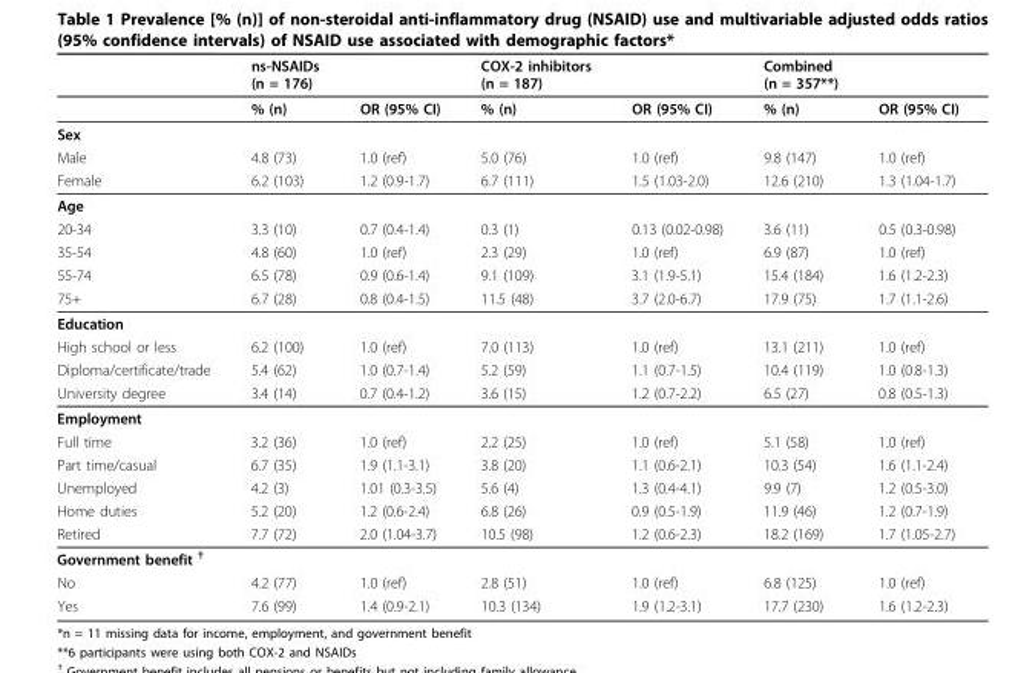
<table><thead><tr><td></td><td>ns-NSAIDs (n = 176)</td><td></td><td>COX-2 inhibitors (n = 187)</td><td></td><td>Combined (n = 357**)</td><td></td></tr></thead><tbody><tr><td></td><td>% (n)</td><td>OR (95% CI)</td><td>% (n)</td><td>OR (95% CI)</td><td>% (n)</td><td>OR (95% CI)</td></tr><tr><td colspan="7">Sex</td></tr><tr><td>Male</td><td>4.8 (73)</td><td>1.0 (ref)</td><td>5.0 (76)</td><td>1.0 (ref)</td><td>9.8 (147)</td><td>1.0 (ref)</td></tr><tr><td>Female</td><td>6.2 (103)</td><td>1.2 (0.9-1.7)</td><td>6.7 (111)</td><td>1.5 (1.03-2.0)</td><td>12.6 (210)</td><td>1.3 (1.04-1.7)</td></tr><tr><td colspan="7">Age</td></tr><tr><td>20-34</td><td>3.3 (10)</td><td>0.7 (0.4-1.4)</td><td>0.3 (1)</td><td>0.13 (0.02-0.98)</td><td>3.6 (11)</td><td>0.5 (0.3-0.98)</td></tr><tr><td>35-54</td><td>4.8 (60)</td><td>1.0 (ref)</td><td>2.3 (29)</td><td>1.0 (ref)</td><td>6.9 (87)</td><td>1.0 (ref)</td></tr><tr><td>55-74</td><td>6.5 (78)</td><td>0.9 (0.6-1.4)</td><td>9.1 (109)</td><td>3.1 (1.9-5.1)</td><td>15.4 (184)</td><td>1.6 (1.2-2.3)</td></tr><tr><td>75+</td><td>6.7 (28)</td><td>0.8 (0.4-1.5)</td><td>11.5 (48)</td><td>3.7 (2.0-6.7)</td><td>17.9 (75)</td><td>1.7 (1.1-2.6)</td></tr><tr><td colspan="7">Education</td></tr><tr><td>High school or less</td><td>6.2 (100)</td><td>1.0 (ref)</td><td>7.0 (113)</td><td>1.0 (ref)</td><td>13.1 (211)</td><td>1.0 (ref)</td></tr><tr><td>Diploma/certificate/trade</td><td>5.4 (62)</td><td>1.0 (0.7-1.4)</td><td>5.2 (59)</td><td>1.1 (0.7-1.5)</td><td>10.4 (119)</td><td>1.0 (0.8-1.3)</td></tr><tr><td>University degree</td><td>3.4 (14)</td><td>0.7 (0.4-1.2)</td><td>3.6 (15)</td><td>1.2 (0.7-2.2)</td><td>6.5 (27)</td><td>0.8 (0.5-1.3)</td></tr><tr><td colspan="7">Employment</td></tr><tr><td>Full time</td><td>3.2 (36)</td><td>1.0 (ref)</td><td>2.2 (25)</td><td>1.0 (ref)</td><td>5.1 (58)</td><td>1.0 (ref)</td></tr><tr><td>Part time/casual</td><td>6.7 (35)</td><td>1.9 (1.1-3.1)</td><td>3.8 (20)</td><td>1.1 (0.6-2.1)</td><td>10.3 (54)</td><td>1.6 (1.1-2.4)</td></tr><tr><td>Unemployed</td><td>4.2 (3)</td><td>1.01 (0.3-3.5)</td><td>5.6 (4)</td><td>1.3 (0.4-4.1)</td><td>9.9 (7)</td><td>1.2 (0.5-3.0)</td></tr><tr><td>Home duties</td><td>5.2 (20)</td><td>1.2 (0.6-2.4)</td><td>6.8 (26)</td><td>0.9 (0.5-1.9)</td><td>11.9 (46)</td><td>1.2 (0.7-1.9)</td></tr><tr><td>Retired</td><td>7.7 (72)</td><td>2.0 (1.04-3.7)</td><td>10.5 (98)</td><td>1.2 (0.6-2.3)</td><td>18.2 (169)</td><td>1.7 (1.05-2.7)</td></tr><tr><td colspan="7">Government benefit <sup>†</sup></td></tr><tr><td>No</td><td>4.2 (77)</td><td>1.0 (ref)</td><td>2.8 (51)</td><td>1.0 (ref)</td><td>6.8 (125)</td><td>1.0 (ref)</td></tr><tr><td>Yes</td><td>7.6 (99)</td><td>1.4 (0.9-2.1)</td><td>10.3 (134)</td><td>1.9 (1.2-3.1)</td><td>17.7 (230)</td><td>1.6 (1.2-2.3)</td></tr></tbody></table>